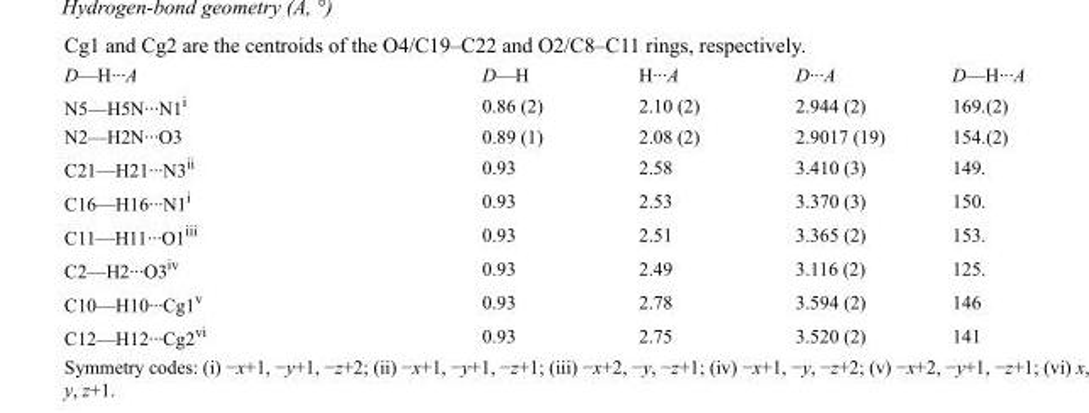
<table><tbody><tr><td>D—H···A</td><td>D—H</td><td>H···A</td><td>D···A</td><td>D—H···A</td></tr><tr><td>N5—H5N···N1<sup>i</sup></td><td>0.86 (2)</td><td>2.10 (2)</td><td>2.944 (2)</td><td>169.(2)</td></tr><tr><td>N2—H2N···O3</td><td>0.89 (1)</td><td>2.08 (2)</td><td>2.9017 (19)</td><td>154.(2)</td></tr><tr><td>C21—H21···N3<sup>ii</sup></td><td>0.93</td><td>2.58</td><td>3.410 (3)</td><td>149.</td></tr><tr><td>C16—H16···N1<sup>i</sup></td><td>0.93</td><td>2.53</td><td>3.370 (3)</td><td>150.</td></tr><tr><td>C11—H11···O1<sup>iii</sup></td><td>0.93</td><td>2.51</td><td>3.365 (2)</td><td>153.</td></tr><tr><td>C2—H2···O3<sup>iv</sup></td><td>0.93</td><td>2.49</td><td>3.116 (2)</td><td>125.</td></tr><tr><td>C10—H10···Cg1<sup>v</sup></td><td>0.93</td><td>2.78</td><td>3.594 (2)</td><td>146</td></tr><tr><td>C12—H12···Cg2<sup>vi</sup></td><td>0.93</td><td>2.75</td><td>3.520 (2)</td><td>141</td></tr></tbody></table>